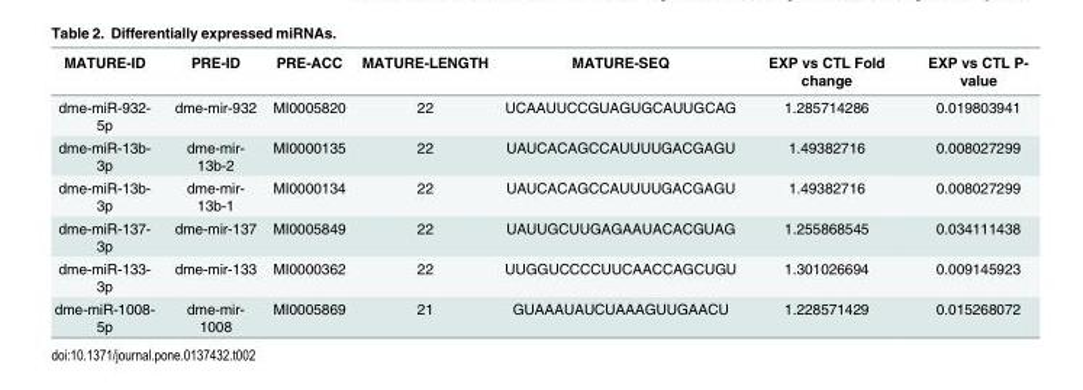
<table><thead><tr><td>MATURE-ID</td><td>PRE-ID</td><td>PRE-ACC</td><td>MATURE-LENGTH</td><td>MATURE-SEQ</td><td>EXP vs CTL Fold change</td><td>EXP vs CTL P- value</td></tr></thead><tbody><tr><td>dme-miR-932- 5p</td><td>dme-mir-932</td><td>MI0005820</td><td>22</td><td>UCAAUUCCGUAGUGCAUUGCAG</td><td>1.285714286</td><td>0.019803941</td></tr><tr><td>dme-miR-13b- 3p</td><td>dme-mir- 13b-2</td><td>MI0000135</td><td>22</td><td>UAUCACAGCCAUUUUGACGAGU</td><td>1.49382716</td><td>0.008027299</td></tr><tr><td>dme-miR-13b- 3p</td><td>dme-mir- 13b-1</td><td>MI0000134</td><td>22</td><td>UAUCACAGCCAUUUUGACGAGU</td><td>1.49382716</td><td>0.008027299</td></tr><tr><td>dme-miR-137- 3p</td><td>dme-mir-137</td><td>MI0005849</td><td>22</td><td>UAUUGCUUGAGAAUACACGUAG</td><td>1.255868545</td><td>0.034111438</td></tr><tr><td>dme-miR-133- 3p</td><td>dme-mir-133</td><td>MI0000362</td><td>22</td><td>UUGGUCCCCUUCAACCAGCUGU</td><td>1.301026694</td><td>0.009145923</td></tr><tr><td>dme-miR-1008- 5p</td><td>dme-mir- 1008</td><td>MI0005869</td><td>21</td><td>GUAAAUAUCUAAAGUUGAACU</td><td>1.228571429</td><td>0.015268072</td></tr></tbody></table>